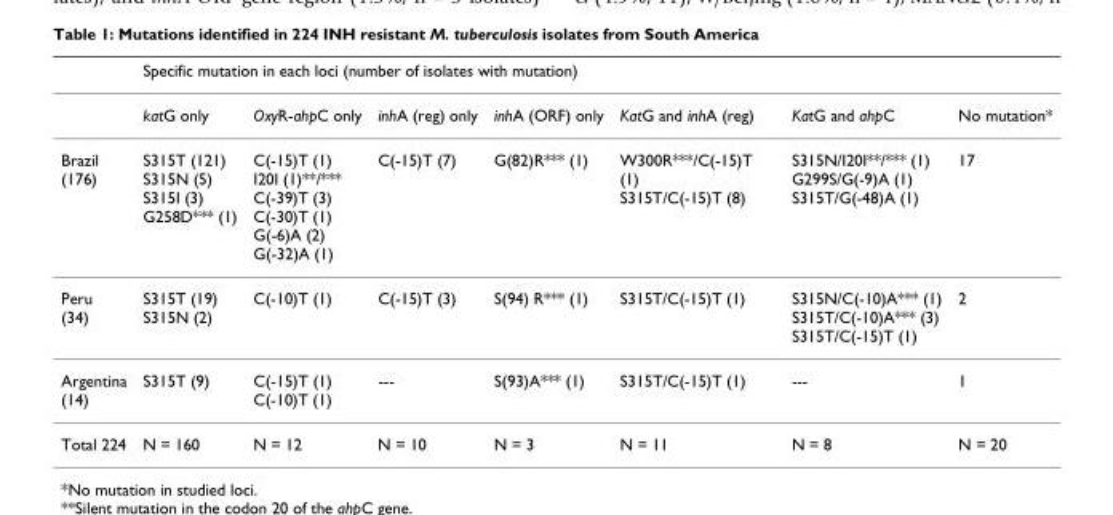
<table><thead><tr><td rowspan="2"></td><td colspan="7">Specific mutation in each loci (number of isolates with mutation)</td></tr><tr><td>katG only</td><td>OxyR-ahpC only</td><td>inhA (reg) only</td><td>inhA (ORF) only</td><td>KatG and inhA (reg)</td><td>KatG and ahpC</td><td>No mutation*</td></tr></thead><tbody><tr><td>Brazil (176)</td><td>S315T (121) S315N (5) S315I (3) G258D*** (1)</td><td>C(-15)T (1) I20I (1)**/*** C(-39)T (3) C(-30)T (1) G(-6)A (2) G(-32)A (1)</td><td>C(-15)T (7)</td><td>G(82)R*** (1)</td><td>W300R***/C(-15)T (1) S315T/C(-15)T (8)</td><td>S315N/I20I**/*** (1) G299S/G(-9)A (1) S315T/G(-48)A (1)</td><td>17</td></tr><tr><td>Peru (34)</td><td>S315T (19) S315N (2)</td><td>C(-10)T (1)</td><td>C(-15)T (3)</td><td>S(94) R*** (1)</td><td>S315T/C(-15)T (1)</td><td>S315N/C(-10)A*** (1) S315T/C(-10)A*** (3) S315T/C(-15)T (1)</td><td>2</td></tr><tr><td>Argentina (14)</td><td>S315T (9)</td><td>C(-15)T (1) C(-10)T (1)</td><td>---</td><td>S(93)A*** (1)</td><td>S315T/C(-15)T (1)</td><td>---</td><td>1</td></tr><tr><td>Total 224</td><td>N = 160</td><td>N = 12</td><td>N = 10</td><td>N = 3</td><td>N = 11</td><td>N = 8</td><td>N = 20</td></tr></tbody></table>